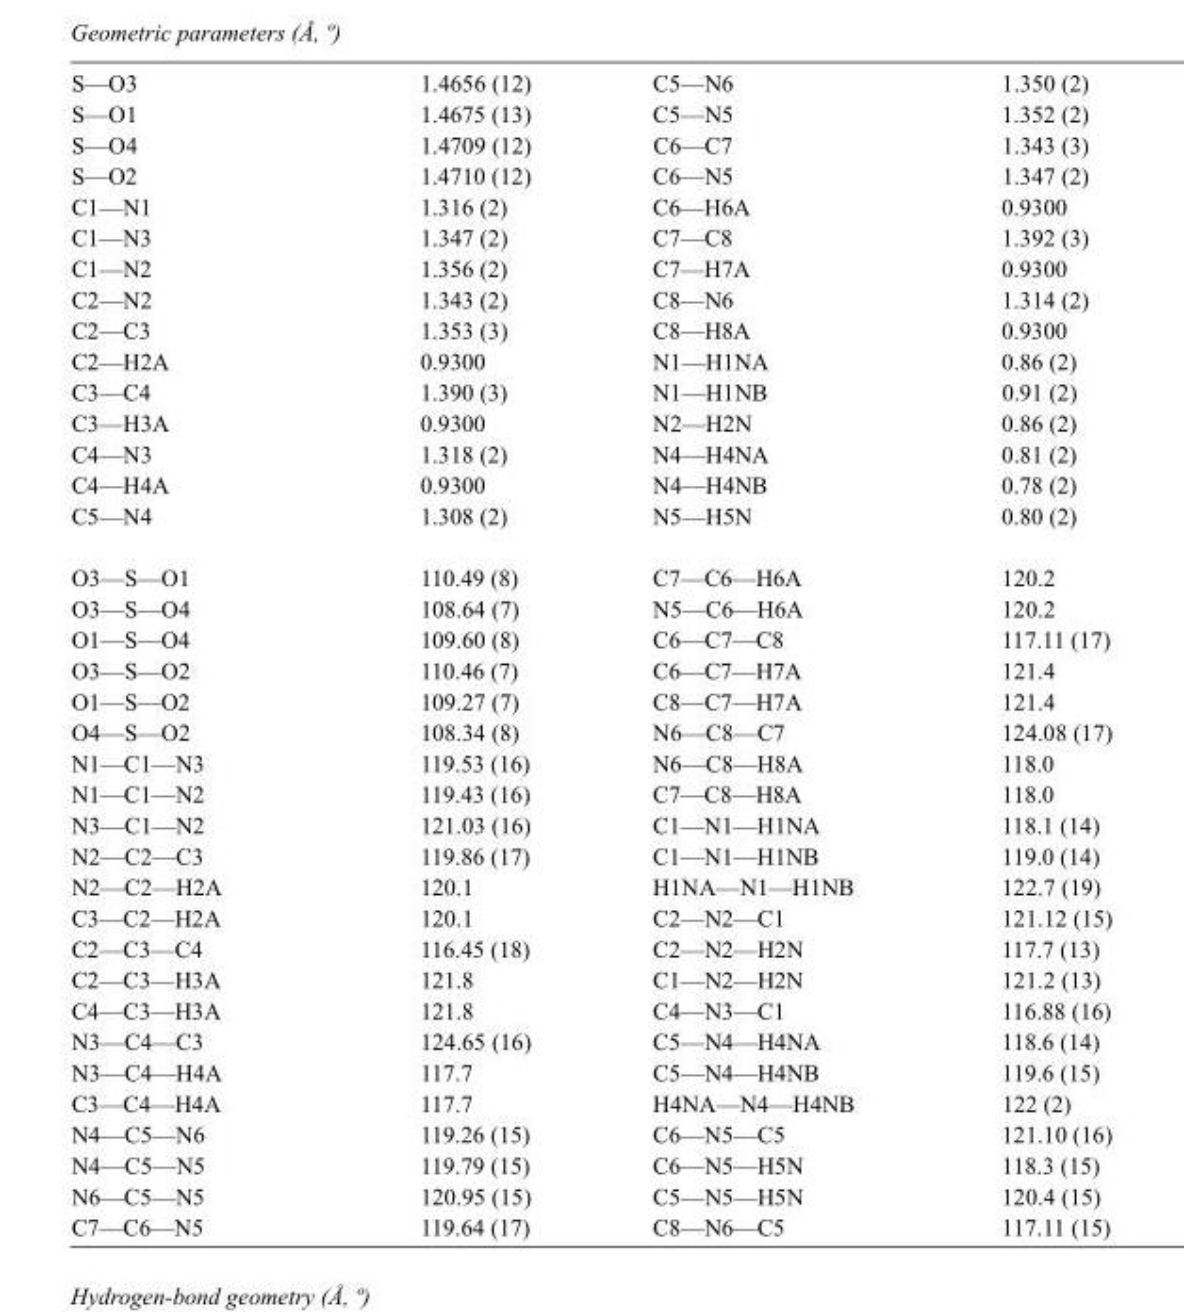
<table><tbody><tr><td>S—O3</td><td>1.4656 (12)</td><td>C5—N6</td><td>1.350 (2)</td></tr><tr><td>S—O1</td><td>1.4675 (13)</td><td>C5—N5</td><td>1.352 (2)</td></tr><tr><td>S—O4</td><td>1.4709 (12)</td><td>C6—C7</td><td>1.343 (3)</td></tr><tr><td>S—O2</td><td>1.4710 (12)</td><td>C6—N5</td><td>1.347 (2)</td></tr><tr><td>C1—N1</td><td>1.316 (2)</td><td>C6—H6A</td><td>0.9300</td></tr><tr><td>C1—N3</td><td>1.347 (2)</td><td>C7—C8</td><td>1.392 (3)</td></tr><tr><td>C1—N2</td><td>1.356 (2)</td><td>C7—H7A</td><td>0.9300</td></tr><tr><td>C2—N2</td><td>1.343 (2)</td><td>C8—N6</td><td>1.314 (2)</td></tr><tr><td>C2—C3</td><td>1.353 (3)</td><td>C8—H8A</td><td>0.9300</td></tr><tr><td>C2—H2A</td><td>0.9300</td><td>N1—H1NA</td><td>0.86 (2)</td></tr><tr><td>C3—C4</td><td>1.390 (3)</td><td>N1—H1NB</td><td>0.91 (2)</td></tr><tr><td>C3—H3A</td><td>0.9300</td><td>N2—H2N</td><td>0.86 (2)</td></tr><tr><td>C4—N3</td><td>1.318 (2)</td><td>N4—H4NA</td><td>0.81 (2)</td></tr><tr><td>C4—H4A</td><td>0.9300</td><td>N4—H4NB</td><td>0.78 (2)</td></tr><tr><td>C5—N4</td><td>1.308 (2)</td><td>N5—H5N</td><td>0.80 (2)</td></tr><tr><td>O3—S—O1</td><td>110.49 (8)</td><td>C7—C6—H6A</td><td>120.2</td></tr><tr><td>O3—S—O4</td><td>108.64 (7)</td><td>N5—C6—H6A</td><td>120.2</td></tr><tr><td>O1—S—O4</td><td>109.60 (8)</td><td>C6—C7—C8</td><td>117.11 (17)</td></tr><tr><td>O3—S—O2</td><td>110.46 (7)</td><td>C6—C7—H7A</td><td>121.4</td></tr><tr><td>O1—S—O2</td><td>109.27 (7)</td><td>C8—C7—H7A</td><td>121.4</td></tr><tr><td>O4—S—O2</td><td>108.34 (8)</td><td>N6—C8—C7</td><td>124.08 (17)</td></tr><tr><td>N1—C1—N3</td><td>119.53 (16)</td><td>N6—C8—H8A</td><td>118.0</td></tr><tr><td>N1—C1—N2</td><td>119.43 (16)</td><td>C7—C8—H8A</td><td>118.0</td></tr><tr><td>N3—C1—N2</td><td>121.03 (16)</td><td>C1—N1—H1NA</td><td>118.1 (14)</td></tr><tr><td>N2—C2—C3</td><td>119.86 (17)</td><td>C1—N1—H1NB</td><td>119.0 (14)</td></tr><tr><td>N2—C2—H2A</td><td>120.1</td><td>H1NA—N1—H1NB</td><td>122.7 (19)</td></tr><tr><td>C3—C2—H2A</td><td>120.1</td><td>C2—N2—C1</td><td>121.12 (15)</td></tr><tr><td>C2—C3—C4</td><td>116.45 (18)</td><td>C2—N2—H2N</td><td>117.7 (13)</td></tr><tr><td>C2—C3—H3A</td><td>121.8</td><td>C1—N2—H2N</td><td>121.2 (13)</td></tr><tr><td>C4—C3—H3A</td><td>121.8</td><td>C4—N3—C1</td><td>116.88 (16)</td></tr><tr><td>N3—C4—C3</td><td>124.65 (16)</td><td>C5—N4—H4NA</td><td>118.6 (14)</td></tr><tr><td>N3—C4—H4A</td><td>117.7</td><td>C5—N4—H4NB</td><td>119.6 (15)</td></tr><tr><td>C3—C4—H4A</td><td>117.7</td><td>H4NA—N4—H4NB</td><td>122 (2)</td></tr><tr><td>N4—C5—N6</td><td>119.26 (15)</td><td>C6—N5—C5</td><td>121.10 (16)</td></tr><tr><td>N4—C5—N5</td><td>119.79 (15)</td><td>C6—N5—H5N</td><td>118.3 (15)</td></tr><tr><td>N6—C5—N5</td><td>120.95 (15)</td><td>C5—N5—H5N</td><td>120.4 (15)</td></tr><tr><td>C7—C6—N5</td><td>119.64 (17)</td><td>C8—N6—C5</td><td>117.11 (15)</td></tr></tbody></table>